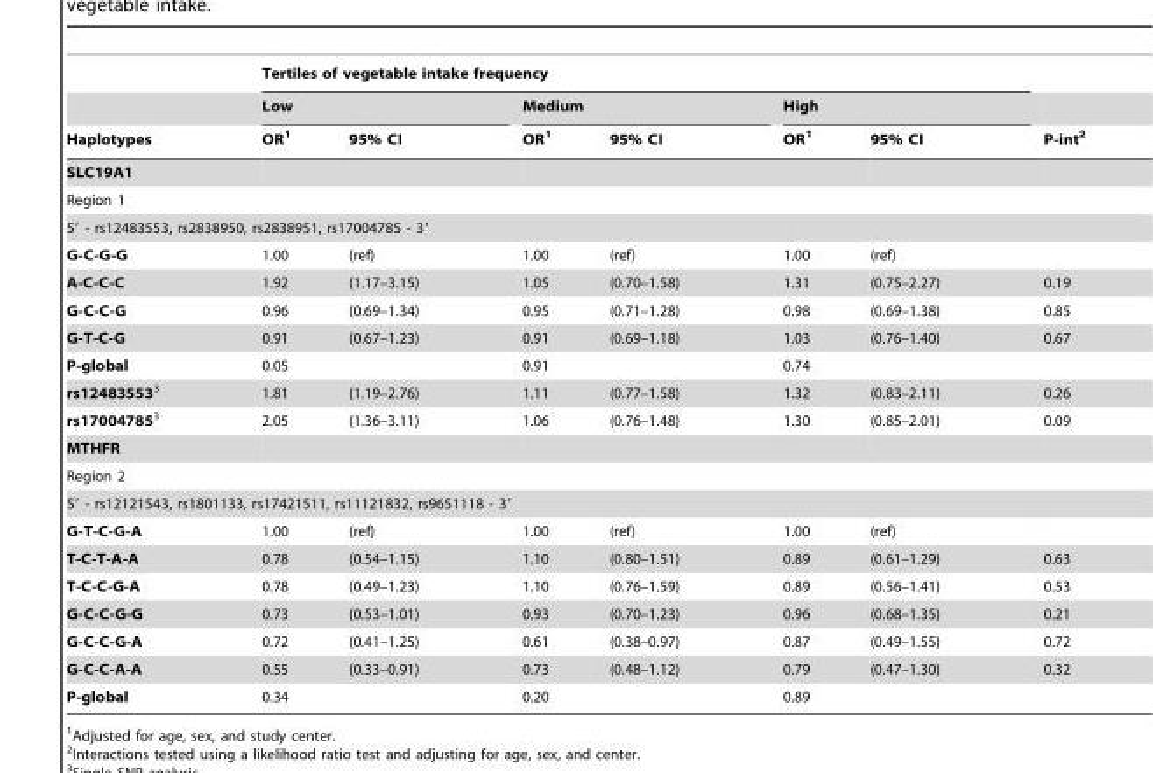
<table><thead><tr><td rowspan="3">Haplotypes</td><td colspan="6">Tertiles of vegetable intake frequency</td><td rowspan="3">P-int<sup>2</sup></td></tr><tr><td colspan="2">Low</td><td colspan="2">Medium</td><td colspan="2">High</td></tr><tr><td>OR<sup>1</sup></td><td>95% CI</td><td>OR<sup>1</sup></td><td>95% CI</td><td>OR<sup>1</sup></td><td>95% CI</td></tr></thead><tbody><tr><td colspan="8">SLC19A1</td></tr><tr><td colspan="8">Region 1</td></tr><tr><td colspan="8">5′ - rs12483553, rs2838950, rs2838951, rs17004785 - 3′</td></tr><tr><td>G-C-G-G</td><td>1.00</td><td>(ref)</td><td>1.00</td><td>(ref)</td><td>1.00</td><td>(ref)</td><td></td></tr><tr><td>A-C-C-C</td><td>1.92</td><td>(1.17–3.15)</td><td>1.05</td><td>(0.70–1.58)</td><td>1.31</td><td>(0.75–2.27)</td><td>0.19</td></tr><tr><td>G-C-C-G</td><td>0.96</td><td>(0.69–1.34)</td><td>0.95</td><td>(0.71–1.28)</td><td>0.98</td><td>(0.69–1.38)</td><td>0.85</td></tr><tr><td>G-T-C-G</td><td>0.91</td><td>(0.67–1.23)</td><td>0.91</td><td>(0.69–1.18)</td><td>1.03</td><td>(0.76–1.40)</td><td>0.67</td></tr><tr><td>P-global</td><td>0.05</td><td></td><td>0.91</td><td></td><td>0.74</td><td></td><td></td></tr><tr><td>rs124835533</td><td>1.81</td><td>(1.19–2.76)</td><td>1.11</td><td>(0.77–1.58)</td><td>1.32</td><td>(0.83–2.11)</td><td>0.26</td></tr><tr><td>rs170047853</td><td>2.05</td><td>(1.36–3.11)</td><td>1.06</td><td>(0.76–1.48)</td><td>1.30</td><td>(0.85–2.01)</td><td>0.09</td></tr><tr><td colspan="8">MTHFR</td></tr><tr><td colspan="8">Region 2</td></tr><tr><td colspan="8">5′ - rs12121543, rs1801133, rs17421511, rs11121832, rs9651118 - 3′</td></tr><tr><td>G-T-C-G-A</td><td>1.00</td><td>(ref)</td><td>1.00</td><td>(ref)</td><td>1.00</td><td>(ref)</td><td></td></tr><tr><td>T-C-T-A-A</td><td>0.78</td><td>(0.54–1.15)</td><td>1.10</td><td>(0.80–1.51)</td><td>0.89</td><td>(0.61–1.29)</td><td>0.63</td></tr><tr><td>T-C-C-G-A</td><td>0.78</td><td>(0.49–1.23)</td><td>1.10</td><td>(0.76–1.59)</td><td>0.89</td><td>(0.56–1.41)</td><td>0.53</td></tr><tr><td>G-C-C-G-G</td><td>0.73</td><td>(0.53–1.01)</td><td>0.93</td><td>(0.70–1.23)</td><td>0.96</td><td>(0.68–1.35)</td><td>0.21</td></tr><tr><td>G-C-C-G-A</td><td>0.72</td><td>(0.41–1.25)</td><td>0.61</td><td>(0.38–0.97)</td><td>0.87</td><td>(0.49–1.55)</td><td>0.72</td></tr><tr><td>G-C-C-A-A</td><td>0.55</td><td>(0.33–0.91)</td><td>0.73</td><td>(0.48–1.12)</td><td>0.79</td><td>(0.47–1.30)</td><td>0.32</td></tr><tr><td>P-global</td><td>0.34</td><td></td><td>0.20</td><td></td><td>0.89</td><td></td><td></td></tr></tbody></table>